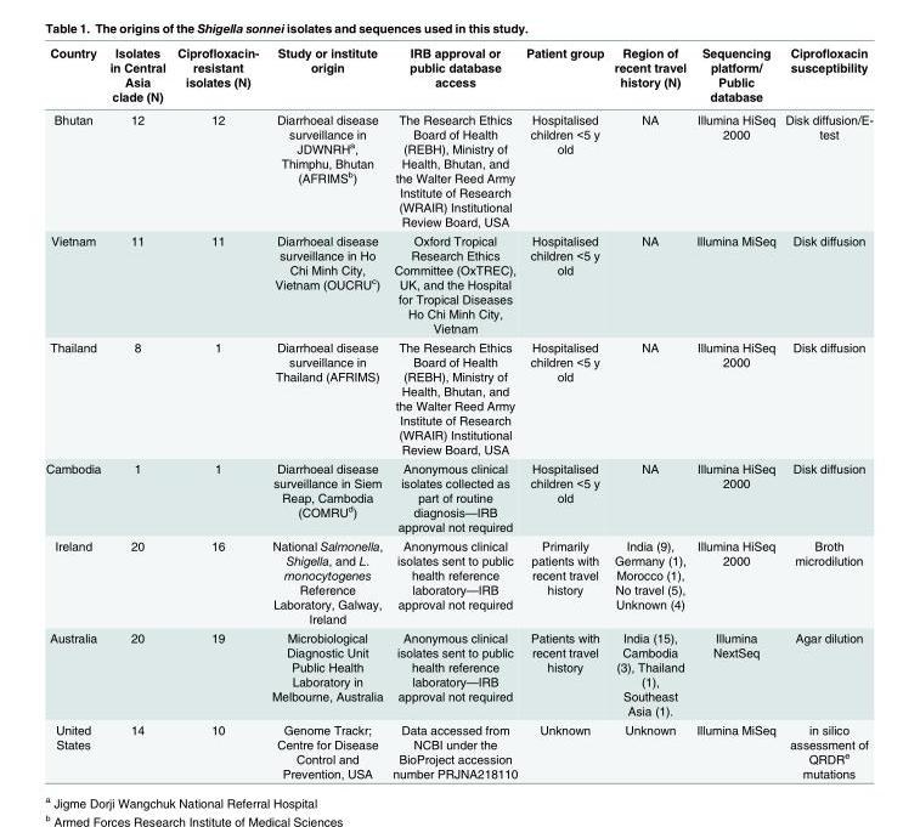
<table><thead><tr><td>Country</td><td>Isolates in Central Asia clade (N)</td><td>Ciprofloxacin- resistant isolates (N)</td><td>Study or institute origin</td><td>IRB approval or public database access</td><td>Patient group</td><td>Region of recent travel history (N)</td><td>Sequencing platform/ Public database</td><td>Ciprofloxacin susceptibility</td></tr></thead><tbody><tr><td>Bhutan</td><td>12</td><td>12</td><td>Diarrhoeal disease surveillance in JDWNRH<sup>a</sup>, Thimphu, Bhutan (AFRIMS<sup>b</sup>)</td><td>The Research Ethics Board of Health (REBH), Ministry of Health, Bhutan, and the Walter Reed Army Institute of Research (WRAIR) Institutional Review Board, USA</td><td>Hospitalised children &lt;5 y old</td><td>NA</td><td>Illumina HiSeq 2000</td><td>Disk diffusion/E- test</td></tr><tr><td>Vietnam</td><td>11</td><td>11</td><td>Diarrhoeal disease surveillance in Ho Chi Minh City, Vietnam (OUCRU<sup>c</sup>)</td><td>Oxford Tropical Research Ethics Committee (OxTREC), UK, and the Hospital for Tropical Diseases Ho Chi Minh City, Vietnam</td><td>Hospitalised children &lt;5 y old</td><td>NA</td><td>Illumina MiSeq</td><td>Disk diffusion</td></tr><tr><td>Thailand</td><td>8</td><td>1</td><td>Diarrhoeal disease surveillance in Thailand (AFRIMS)</td><td>The Research Ethics Board of Health (REBH), Ministry of Health, Bhutan, and the Walter Reed Army Institute of Research (WRAIR) Institutional Review Board, USA</td><td>Hospitalised children &lt;5 y old</td><td>NA</td><td>Illumina HiSeq 2000</td><td>Disk diffusion</td></tr><tr><td>Cambodia</td><td>1</td><td>1</td><td>Diarrhoeal disease surveillance in Siem Reap, Cambodia (COMRU<sup>d</sup>)</td><td>Anonymous clinical isolates collected as part of routine diagnosis—IRB approval not required</td><td>Hospitalised children &lt;5 y old</td><td>NA</td><td>Illumina HiSeq 2000</td><td>Disk diffusion</td></tr><tr><td>Ireland</td><td>20</td><td>16</td><td>National Salmonella, Shigella, and L. monocytogenes Reference Laboratory, Galway, Ireland</td><td>Anonymous clinical isolates sent to public health reference laboratory—IRB approval not required</td><td>Primarily patients with recent travel history</td><td>India (9), Germany (1), Morocco (1), No travel (5), Unknown (4)</td><td>Illumina HiSeq 2000</td><td>Broth microdilution</td></tr><tr><td>Australia</td><td>20</td><td>19</td><td>Microbiological Diagnostic Unit Public Health Laboratory in Melbourne, Australia</td><td>Anonymous clinical isolates sent to public health reference laboratory—IRB approval not required</td><td>Patients with recent travel history</td><td>India (15), Cambodia (3), Thailand (1), Southeast Asia (1).</td><td>Illumina NextSeq</td><td>Agar dilution</td></tr><tr><td>United States</td><td>14</td><td>10</td><td>Genome Trackr; Centre for Disease Control and Prevention, USA</td><td>Data accessed from NCBI under the BioProject accession number PRJNA218110</td><td>Unknown</td><td>Unknown</td><td>Illumina MiSeq</td><td>in silico assessment of QRDR<sup>e</sup> mutations</td></tr></tbody></table>